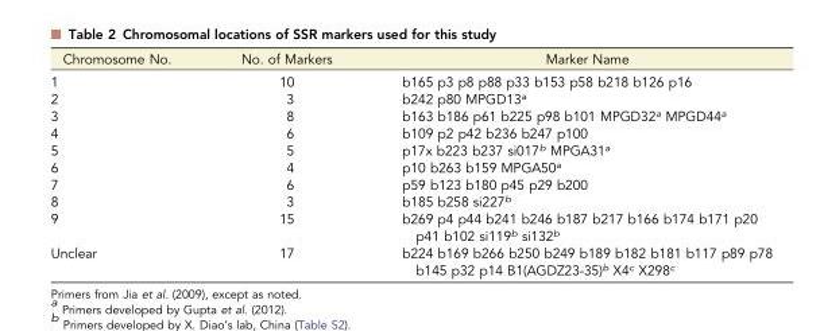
<table><thead><tr><td>Chromosome No.</td><td>No. of Markers</td><td>Marker Name</td></tr></thead><tbody><tr><td>1</td><td>10</td><td>b165 p3 p8 p88 p33 b153 p58 b218 b126 p16</td></tr><tr><td>2</td><td>3</td><td>b242 p80 MPGD13<sup>a</sup></td></tr><tr><td>3</td><td>8</td><td>b163 b186 p61 b225 p98 b101 MPGD32<sup>a</sup> MPGD44<sup>a</sup></td></tr><tr><td>4</td><td>6</td><td>b109 p2 p42 b236 b247 p100</td></tr><tr><td>5</td><td>5</td><td>p17x b223 b237 si017<sup>b</sup> MPGA31<sup>a</sup></td></tr><tr><td>6</td><td>4</td><td>p10 b263 b159 MPGA50<sup>a</sup></td></tr><tr><td>7</td><td>6</td><td>p59 b123 b180 p45 p29 b200</td></tr><tr><td>8</td><td>3</td><td>b185 b258 si227<sup>b</sup></td></tr><tr><td>9</td><td>15</td><td>b269 p4 p44 b241 b246 b187 b217 b166 b174 b171 p20 p41 b102 si119<sup>b</sup> si132<sup>b</sup></td></tr><tr><td>Unclear</td><td>17</td><td>b224 b169 b266 b250 b249 b189 b182 b181 b117 p89 p78 b145 p32 p14 B1(AGDZ23-35)<sup>b</sup> X4<sup>c</sup> X298<sup>c</sup></td></tr></tbody></table>